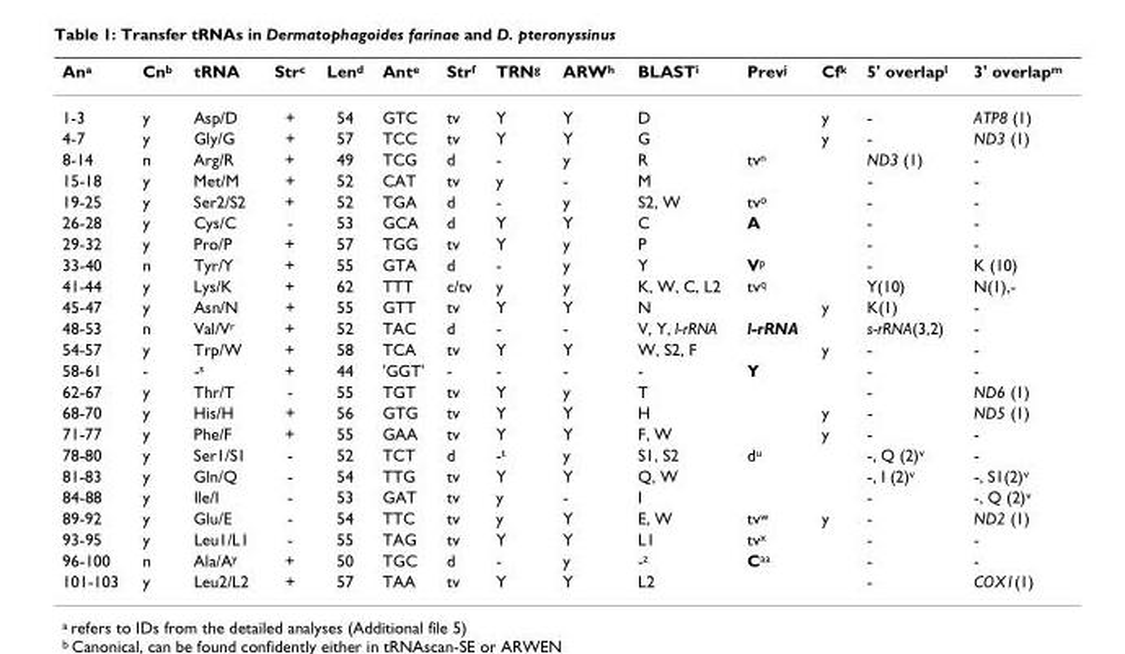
<table><thead><tr><td>An<sup>a</sup></td><td>Cn<sup>b</sup></td><td>tRNA</td><td>Str<sup>c</sup></td><td>Len<sup>d</sup></td><td>Ant<sup>e</sup></td><td>Str<sup>f</sup></td><td>TRN<sup>g</sup></td><td>ARW<sup>h</sup></td><td>BLAST<sup>i</sup></td><td>Prev<sup>j</sup></td><td>Cf<sup>k</sup></td><td>5&#x27; overlap<sup>l</sup></td><td>3&#x27; overlap<sup>m</sup></td></tr></thead><tbody><tr><td>1-3</td><td>y</td><td>Asp/D</td><td>+</td><td>54</td><td>GTC</td><td>tv</td><td>Y</td><td>Y</td><td>D</td><td></td><td>y</td><td>-</td><td>ATP8 (1)</td></tr><tr><td>4-7</td><td>y</td><td>Gly/G</td><td>+</td><td>57</td><td>TCC</td><td>tv</td><td>Y</td><td>Y</td><td>G</td><td></td><td>y</td><td>-</td><td>ND3 (1)</td></tr><tr><td>8-14</td><td>n</td><td>Arg/R</td><td>+</td><td>49</td><td>TCG</td><td>d</td><td>-</td><td>y</td><td>R</td><td>tv<sup>n</sup></td><td></td><td>ND3 (1)</td><td>-</td></tr><tr><td>15-18</td><td>y</td><td>Met/M</td><td>+</td><td>52</td><td>CAT</td><td>tv</td><td>y</td><td>-</td><td>M</td><td></td><td></td><td>-</td><td>-</td></tr><tr><td>19-25</td><td>y</td><td>Ser2/S2</td><td>+</td><td>52</td><td>TGA</td><td>d</td><td>-</td><td>y</td><td>S2, W</td><td>tv<sup>o</sup></td><td></td><td>-</td><td>-</td></tr><tr><td>26-28</td><td>y</td><td>Cys/C</td><td>-</td><td>53</td><td>GCA</td><td>d</td><td>Y</td><td>Y</td><td>C</td><td>A</td><td></td><td>-</td><td>-</td></tr><tr><td>29-32</td><td>y</td><td>Pro/P</td><td>+</td><td>57</td><td>TGG</td><td>tv</td><td>Y</td><td>y</td><td>P</td><td></td><td></td><td>-</td><td>-</td></tr><tr><td>33-40</td><td>n</td><td>Tyr/Y</td><td>+</td><td>55</td><td>GTA</td><td>d</td><td>-</td><td>y</td><td>Y</td><td>V<sup>p</sup></td><td></td><td>-</td><td>K (10)</td></tr><tr><td>41-44</td><td>y</td><td>Lys/K</td><td>+</td><td>62</td><td>TTT</td><td>c/tv</td><td>y</td><td>y</td><td>K, W, C, L2</td><td>tv<sup>q</sup></td><td></td><td>Y(10)</td><td>N(1),-</td></tr><tr><td>45-47</td><td>y</td><td>Asn/N</td><td>+</td><td>55</td><td>GTT</td><td>tv</td><td>Y</td><td>Y</td><td>N</td><td></td><td>y</td><td>K(1)</td><td>-</td></tr><tr><td>48-53</td><td>n</td><td>Val/V<sup>r</sup></td><td>+</td><td>52</td><td>TAC</td><td>d</td><td>-</td><td>-</td><td>V, Y, l-rRNA</td><td>l-rRNA</td><td></td><td>s-rRNA(3,2)</td><td>-</td></tr><tr><td>54-57</td><td>y</td><td>Trp/W</td><td>+</td><td>58</td><td>TCA</td><td>tv</td><td>Y</td><td>Y</td><td>W, S2, F</td><td></td><td>y</td><td>-</td><td>-</td></tr><tr><td>58-61</td><td>-</td><td>-<sup>s</sup></td><td>+</td><td>44</td><td>&#x27;GGT&#x27;</td><td>-</td><td>-</td><td>-</td><td>-</td><td>Y</td><td></td><td>-</td><td>-</td></tr><tr><td>62-67</td><td>y</td><td>Thr/T</td><td>-</td><td>55</td><td>TGT</td><td>tv</td><td>Y</td><td>y</td><td>T</td><td></td><td></td><td>-</td><td>ND6 (1)</td></tr><tr><td>68-70</td><td>y</td><td>His/H</td><td>+</td><td>56</td><td>GTG</td><td>tv</td><td>Y</td><td>Y</td><td>H</td><td></td><td>y</td><td>-</td><td>ND5 (1)</td></tr><tr><td>71-77</td><td>y</td><td>Phe/F</td><td>+</td><td>55</td><td>GAA</td><td>tv</td><td>Y</td><td>Y</td><td>F, W</td><td></td><td>y</td><td>-</td><td>-</td></tr><tr><td>78-80</td><td>y</td><td>Ser1/S1</td><td>-</td><td>52</td><td>TCT</td><td>d</td><td>-<sup>t</sup></td><td>y</td><td>S1, S2</td><td>d<sup>u</sup></td><td></td><td>-, Q (2)<sup>v</sup></td><td>-</td></tr><tr><td>81-83</td><td>y</td><td>Gln/Q</td><td>-</td><td>54</td><td>TTG</td><td>tv</td><td>Y</td><td>Y</td><td>Q, W</td><td></td><td></td><td>-, I (2)<sup>v</sup></td><td>-, S1(2)<sup>v</sup></td></tr><tr><td>84-88</td><td>y</td><td>Ile/I</td><td>-</td><td>53</td><td>GAT</td><td>tv</td><td>y</td><td>-</td><td>I</td><td></td><td></td><td>-</td><td>-, Q (2)<sup>v</sup></td></tr><tr><td>89-92</td><td>y</td><td>Glu/E</td><td>-</td><td>54</td><td>TTC</td><td>tv</td><td>y</td><td>Y</td><td>E, W</td><td>tv<sup>w</sup></td><td>y</td><td>-</td><td>ND2 (1)</td></tr><tr><td>93-95</td><td>y</td><td>Leu1/L1</td><td>-</td><td>55</td><td>TAG</td><td>tv</td><td>Y</td><td>Y</td><td>L1</td><td>tv<sup>x</sup></td><td></td><td>-</td><td>-</td></tr><tr><td>96-100</td><td>n</td><td>Ala/A<sup>y</sup></td><td>+</td><td>50</td><td>TGC</td><td>d</td><td>-</td><td>y</td><td>-<sup>z</sup></td><td>C<sup>aa</sup></td><td></td><td>-</td><td>-</td></tr><tr><td>101-103</td><td>y</td><td>Leu2/L2</td><td>+</td><td>57</td><td>TAA</td><td>tv</td><td>Y</td><td>Y</td><td>L2</td><td></td><td></td><td>-</td><td>COX1(1)</td></tr></tbody></table>